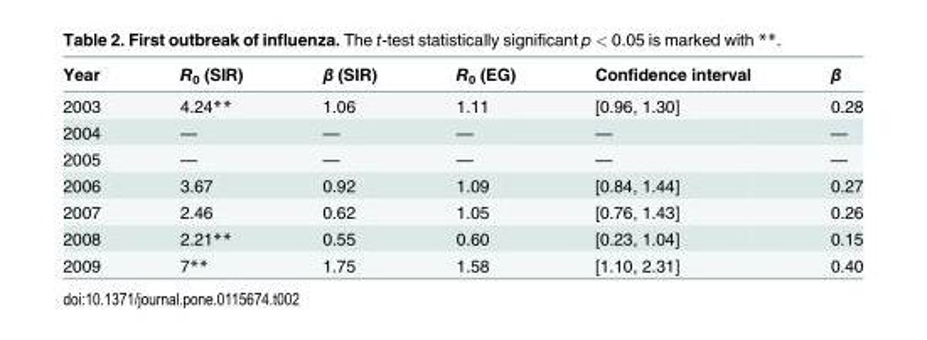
<table><thead><tr><td>Year</td><td>R<sub>0</sub> (SIR)</td><td>β (SIR)</td><td>R<sub>0</sub> (EG)</td><td>Confidence interval</td><td>β</td></tr></thead><tbody><tr><td>2003</td><td>4.24**</td><td>1.06</td><td>1.11</td><td>[0.96, 1.30]</td><td>0.28</td></tr><tr><td>2004</td><td>—</td><td>—</td><td>—</td><td>—</td><td>—</td></tr><tr><td>2005</td><td>—</td><td>—</td><td>—</td><td>—</td><td>—</td></tr><tr><td>2006</td><td>3.67</td><td>0.92</td><td>1.09</td><td>[0.84, 1.44]</td><td>0.27</td></tr><tr><td>2007</td><td>2.46</td><td>0.62</td><td>1.05</td><td>[0.76, 1.43]</td><td>0.26</td></tr><tr><td>2008</td><td>2.21**</td><td>0.55</td><td>0.60</td><td>[0.23, 1.04]</td><td>0.15</td></tr><tr><td>2009</td><td>7**</td><td>1.75</td><td>1.58</td><td>[1.10, 2.31]</td><td>0.40</td></tr></tbody></table>